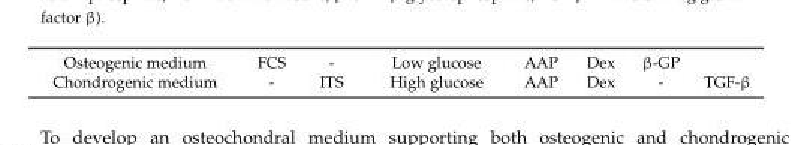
<table><tbody><tr><td>Osteogenic medium</td><td>FCS</td><td>-</td><td>Low glucose</td><td>AAP</td><td>Dex</td><td>β-GP</td><td></td></tr><tr><td>Chondrogenic medium</td><td>-</td><td>ITS</td><td>High glucose</td><td>AAP</td><td>Dex</td><td>-</td><td>TGF-β</td></tr></tbody></table>